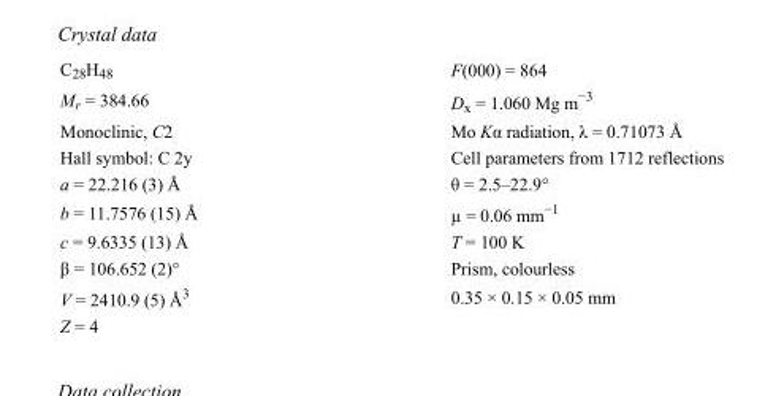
<table><tbody><tr><td>C<sub>28</sub>H<sub>48</sub></td><td>F(000) = 864</td></tr><tr><td>M<sub>r</sub> = 384.66</td><td>D<sub>x</sub> = 1.060 Mg m<sup>−3</sup></td></tr><tr><td>Monoclinic, C2</td><td>Mo Kα radiation, λ = 0.71073 Å</td></tr><tr><td>Hall symbol: C 2y</td><td>Cell parameters from 1712 reflections</td></tr><tr><td>a = 22.216 (3) Å</td><td>θ = 2.5–22.9°</td></tr><tr><td>b = 11.7576 (15) Å</td><td>µ = 0.06 mm<sup>−1</sup></td></tr><tr><td>c = 9.6335 (13) Å</td><td>T = 100 K</td></tr><tr><td>β = 106.652 (2)°</td><td>Prism, colourless</td></tr><tr><td>V = 2410.9 (5) Å<sup>3</sup></td><td>0.35 × 0.15 × 0.05 mm</td></tr><tr><td>Z = 4</td><td></td></tr></tbody></table>